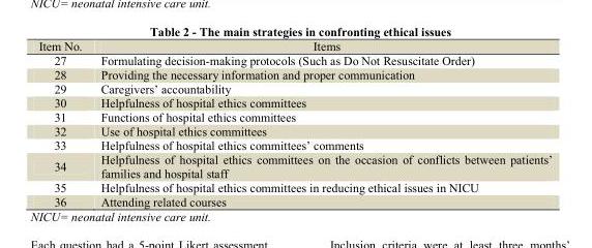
<table><thead><tr><td>Item No.</td><td>Items</td></tr></thead><tbody><tr><td>27</td><td>Formulating decision-making protocols (Such as Do Not Resuscitate Order)</td></tr><tr><td>28</td><td>Providing the necessary information and proper communication</td></tr><tr><td>29</td><td>Caregivers’ accountability</td></tr><tr><td>30</td><td>Helpfulness of hospital ethics committees</td></tr><tr><td>31</td><td>Functions of hospital ethics committees</td></tr><tr><td>32</td><td>Use of hospital ethics committees</td></tr><tr><td>33</td><td>Helpfulness of hospital ethics committees’ comments</td></tr><tr><td>34</td><td>Helpfulness of hospital ethics committees on the occasion of conflicts between patients’ families and hospital staff</td></tr><tr><td>35</td><td>Helpfulness of hospital ethics committees in reducing ethical issues in NICU</td></tr><tr><td>36</td><td>Attending related courses</td></tr></tbody></table>